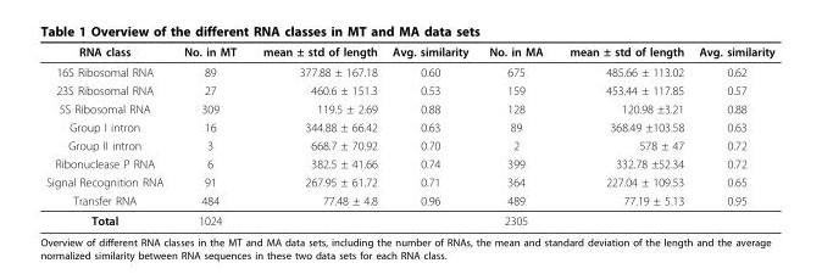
<table><thead><tr><td>RNA class</td><td>No. in MT</td><td>mean ± std of length</td><td>Avg. similarity</td><td>No. in MA</td><td>mean ± std of length</td><td>Avg. similarity</td></tr></thead><tbody><tr><td>16S Ribosomal RNA</td><td>89</td><td>377.88 ± 167.18</td><td>0.60</td><td>675</td><td>485.66 ± 113.02</td><td>0.62</td></tr><tr><td>23S Ribosomal RNA</td><td>27</td><td>460.6 ± 151.3</td><td>0.53</td><td>159</td><td>453.44 ± 117.85</td><td>0.57</td></tr><tr><td>5S Ribosomal RNA</td><td>309</td><td>119.5 ± 2.69</td><td>0.88</td><td>128</td><td>120.98 ±3.21</td><td>0.88</td></tr><tr><td>Group I intron</td><td>16</td><td>344.88 ± 66.42</td><td>0.63</td><td>89</td><td>368.49 ±103.58</td><td>0.63</td></tr><tr><td>Group II intron</td><td>3</td><td>668.7 ± 70.92</td><td>0.70</td><td>2</td><td>578 ± 47</td><td>0.72</td></tr><tr><td>Ribonuclease P RNA</td><td>6</td><td>382.5 ± 41.66</td><td>0.74</td><td>399</td><td>332.78 ±52.34</td><td>0.72</td></tr><tr><td>Signal Recognition RNA</td><td>91</td><td>267.95 ± 61.72</td><td>0.71</td><td>364</td><td>227.04 ± 109.53</td><td>0.65</td></tr><tr><td>Transfer RNA</td><td>484</td><td>77.48 ± 4.8</td><td>0.96</td><td>489</td><td>77.19 ± 5.13</td><td>0.95</td></tr><tr><td>Total</td><td>1024</td><td></td><td></td><td>2305</td><td></td><td></td></tr></tbody></table>